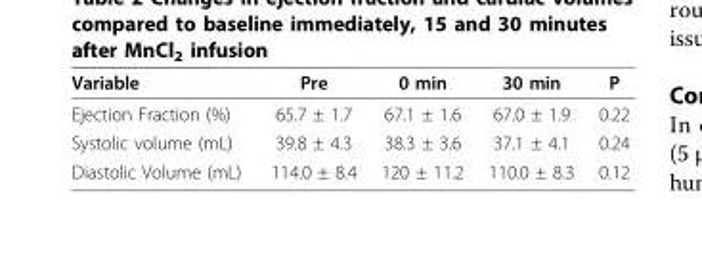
<table><thead><tr><td>Variable</td><td>Pre</td><td>0 min</td><td>30 min</td><td>P</td></tr></thead><tbody><tr><td>Ejection Fraction (%)</td><td>65.7 ± 1.7</td><td>67.1 ± 1.6</td><td>67.0 ± 1.9</td><td>0.22</td></tr><tr><td>Systolic volume (mL)</td><td>39.8 ± 4.3</td><td>38.3 ± 3.6</td><td>37.1 ± 4.1</td><td>0.24</td></tr><tr><td>Diastolic Volume (mL)</td><td>114.0 ± 8.4</td><td>120 ± 11.2</td><td>110.0 ± 8.3</td><td>0.12</td></tr></tbody></table>